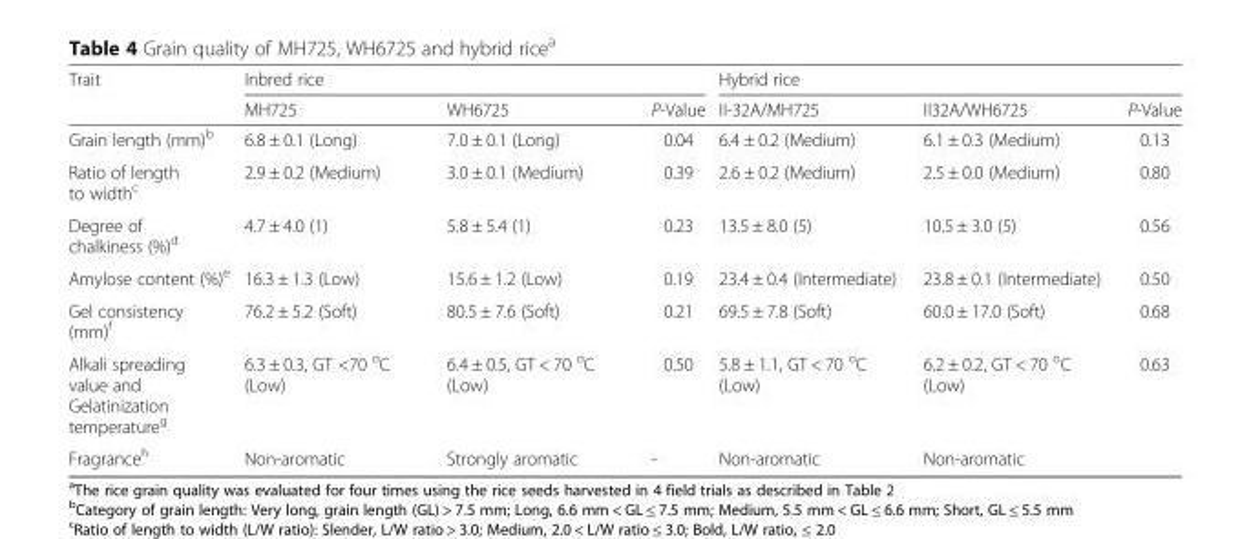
<table><thead><tr><td rowspan="2">Trait</td><td colspan="3">Inbred rice</td><td colspan="3">Hybrid rice</td></tr><tr><td>MH725</td><td>WH6725</td><td>P-Value</td><td>II-32A/MH725</td><td>II32A/WH6725</td><td>P-Value</td></tr></thead><tbody><tr><td>Grain length (mm)<sup>b</sup></td><td>6.8 ± 0.1 (Long)</td><td>7.0 ± 0.1 (Long)</td><td>0.04</td><td>6.4 ± 0.2 (Medium)</td><td>6.1 ± 0.3 (Medium)</td><td>0.13</td></tr><tr><td>Ratio of length to width<sup>c</sup></td><td>2.9 ± 0.2 (Medium)</td><td>3.0 ± 0.1 (Medium)</td><td>0.39</td><td>2.6 ± 0.2 (Medium)</td><td>2.5 ± 0.0 (Medium)</td><td>0.80</td></tr><tr><td>Degree of chalkiness (%)<sup>d</sup></td><td>4.7 ± 4.0 (1)</td><td>5.8 ± 5.4 (1)</td><td>0.23</td><td>13.5 ± 8.0 (5)</td><td>10.5 ± 3.0 (5)</td><td>0.56</td></tr><tr><td>Amylose content (%)<sup>e</sup></td><td>16.3 ± 1.3 (Low)</td><td>15.6 ± 1.2 (Low)</td><td>0.19</td><td>23.4 ± 0.4 (Intermediate)</td><td>23.8 ± 0.1 (Intermediate)</td><td>0.50</td></tr><tr><td>Gel consistency (mm)<sup>f</sup></td><td>76.2 ± 5.2 (Soft)</td><td>80.5 ± 7.6 (Soft)</td><td>0.21</td><td>69.5 ± 7.8 (Soft)</td><td>60.0 ± 17.0 (Soft)</td><td>0.68</td></tr><tr><td>Alkali spreading value and Gelatinization temperature<sup>g</sup></td><td>6.3 ± 0.3, GT &lt;70 <sup>o</sup>C (Low)</td><td>6.4 ± 0.5, GT &lt; 70 <sup>o</sup>C (Low)</td><td>0.50</td><td>5.8 ± 1.1, GT &lt; 70 <sup>o</sup>C (Low)</td><td>6.2 ± 0.2, GT &lt; 70 <sup>o</sup>C (Low)</td><td>0.63</td></tr><tr><td>Fragrance<sup>h</sup></td><td>Non-aromatic</td><td>Strongly aromatic</td><td>-</td><td>Non-aromatic</td><td>Non-aromatic</td><td></td></tr></tbody></table>